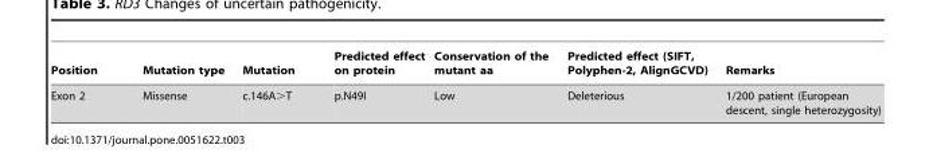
<table><thead><tr><td>Position</td><td>Mutation type</td><td>Mutation</td><td>Predicted effect on protein</td><td>Conservation of the mutant aa</td><td>Predicted effect (SIFT, Polyphen-2, AlignGCVD)</td><td>Remarks</td></tr></thead><tbody><tr><td>Exon 2</td><td>Missense</td><td>c.146A&gt;T</td><td>p.N49I</td><td>Low</td><td>Deleterious</td><td>1/200 patient (European descent, single heterozygosity)</td></tr></tbody></table>